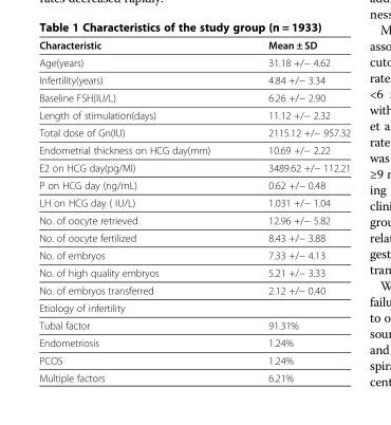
<table><thead><tr><td>Characteristic</td><td>Mean ± SD</td></tr></thead><tbody><tr><td>Age(years)</td><td>31.18 +/− 4.62</td></tr><tr><td>Infertility(years)</td><td>4.84 +/− 3.34</td></tr><tr><td>Baseline FSH(IU/L)</td><td>6.26 +/− 2.90</td></tr><tr><td>Length of stimulation(days)</td><td>11.12 +/− 2.32</td></tr><tr><td>Total dose of Gn(IU)</td><td>2115.12 +/− 957.32</td></tr><tr><td>Endometrial thickness on HCG day(mm)</td><td>10.69 +/− 2.22</td></tr><tr><td>E2 on HCG day(pg/Ml)</td><td>3489.62 +/− 112.21</td></tr><tr><td>P on HCG day (ng/mL)</td><td>0.62 +/− 0.48</td></tr><tr><td>LH on HCG day ( IU/L)</td><td>1.031 +/− 1.04</td></tr><tr><td>No. of oocyte retrieved</td><td>12.96 +/− 5.82</td></tr><tr><td>No. of oocyte fertilized</td><td>8.43 +/− 3.88</td></tr><tr><td>No. of embryos</td><td>7.33 +/− 4.13</td></tr><tr><td>No. of high quality embryos</td><td>5.21 +/− 3.33</td></tr><tr><td>No. of embryos transferred</td><td>2.12 +/− 0.40</td></tr><tr><td colspan="2">Etiology of infertility</td></tr><tr><td>Tubal factor</td><td>91.31%</td></tr><tr><td>Endometriosis</td><td>1.24%</td></tr><tr><td>PCOS</td><td>1.24%</td></tr><tr><td>Multiple factors</td><td>6.21%</td></tr></tbody></table>